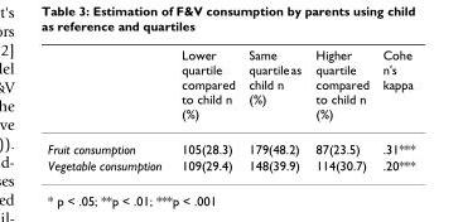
<table><thead><tr><td></td><td>Lower quartile compared to child n (%)</td><td>Same quartile as child n (%)</td><td>Higher quartile compared to child n (%)</td><td>Cohe n&#x27;s kappa</td></tr></thead><tbody><tr><td>Fruit consumption</td><td>105(28.3)</td><td>179(48.2)</td><td>87(23.5)</td><td>.31***</td></tr><tr><td>Vegetable consumption</td><td>109(29.4)</td><td>148(39.9)</td><td>114(30.7)</td><td>.20***</td></tr></tbody></table>